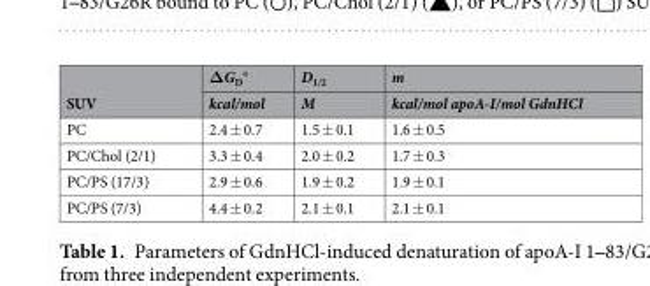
<table><thead><tr><td rowspan="2">SUV</td><td rowspan="2">ΔG<sub>D</sub>° kcal/mol</td><td rowspan="2">D1/2 M</td><td rowspan="2">m kcal/mol apoA-I/mol GdnHCl</td></tr><tr></tr></thead><tbody><tr><td>PC</td><td>2.4 ± 0.7</td><td>1.5 ± 0.1</td><td>1.6 ± 0.5</td></tr><tr><td>PC/Chol (2/1)</td><td>3.3 ± 0.4</td><td>2.0 ± 0.2</td><td>1.7 ± 0.3</td></tr><tr><td>PC/PS (17/3)</td><td>2.9 ± 0.6</td><td>1.9 ± 0.2</td><td>1.9 ± 0.1</td></tr><tr><td>PC/PS (7/3)</td><td>4.4 ± 0.2</td><td>2.1 ± 0.1</td><td>2.1 ± 0.1</td></tr></tbody></table>